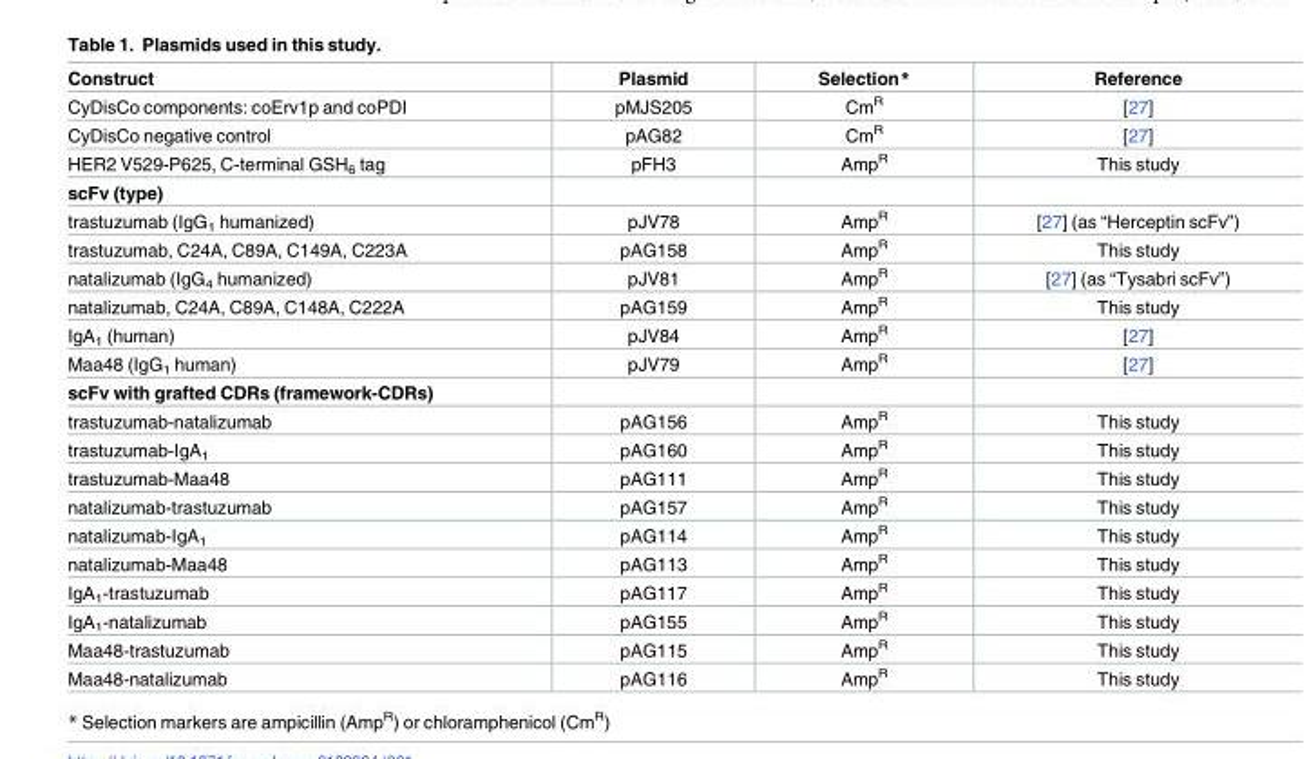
<table><thead><tr><td>Construct</td><td>Plasmid</td><td>Selection*</td><td>Reference</td></tr></thead><tbody><tr><td>CyDisCo components: coErv1p and coPDI</td><td>pMJS205</td><td>Cm<sup>R</sup></td><td>[27]</td></tr><tr><td>CyDisCo negative control</td><td>pAG82</td><td>Cm<sup>R</sup></td><td>[27]</td></tr><tr><td>HER2 V529-P625, C-terminal GSH<sub>6</sub> tag</td><td>pFH3</td><td>Amp<sup>R</sup></td><td>This study</td></tr><tr><td colspan="4">scFv (type)</td></tr><tr><td>trastuzumab (IgG<sub>1</sub> humanized)</td><td>pJV78</td><td>Amp<sup>R</sup></td><td>[27] (as “Herceptin scFv”)</td></tr><tr><td>trastuzumab, C24A, C89A, C149A, C223A</td><td>pAG158</td><td>Amp<sup>R</sup></td><td>This study</td></tr><tr><td>natalizumab (IgG<sub>4</sub> humanized)</td><td>pJV81</td><td>Amp<sup>R</sup></td><td>[27] (as “Tysabri scFv”)</td></tr><tr><td>natalizumab, C24A, C89A, C148A, C222A</td><td>pAG159</td><td>Amp<sup>R</sup></td><td>This study</td></tr><tr><td>IgA<sub>1</sub> (human)</td><td>pJV84</td><td>Amp<sup>R</sup></td><td>[27]</td></tr><tr><td>Maa48 (IgG<sub>1</sub> human)</td><td>pJV79</td><td>Amp<sup>R</sup></td><td>[27]</td></tr><tr><td colspan="4">scFv with grafted CDRs (framework-CDRs)</td></tr><tr><td>trastuzumab-natalizumab</td><td>pAG156</td><td>Amp<sup>R</sup></td><td>This study</td></tr><tr><td>trastuzumab-IgA<sub>1</sub></td><td>pAG160</td><td>Amp<sup>R</sup></td><td>This study</td></tr><tr><td>trastuzumab-Maa48</td><td>pAG111</td><td>Amp<sup>R</sup></td><td>This study</td></tr><tr><td>natalizumab-trastuzumab</td><td>pAG157</td><td>Amp<sup>R</sup></td><td>This study</td></tr><tr><td>natalizumab-IgA<sub>1</sub></td><td>pAG114</td><td>Amp<sup>R</sup></td><td>This study</td></tr><tr><td>natalizumab-Maa48</td><td>pAG113</td><td>Amp<sup>R</sup></td><td>This study</td></tr><tr><td>IgA<sub>1</sub>-trastuzumab</td><td>pAG117</td><td>Amp<sup>R</sup></td><td>This study</td></tr><tr><td>IgA<sub>1</sub>-natalizumab</td><td>pAG155</td><td>Amp<sup>R</sup></td><td>This study</td></tr><tr><td>Maa48-trastuzumab</td><td>pAG115</td><td>Amp<sup>R</sup></td><td>This study</td></tr><tr><td>Maa48-natalizumab</td><td>pAG116</td><td>Amp<sup>R</sup></td><td>This study</td></tr></tbody></table>